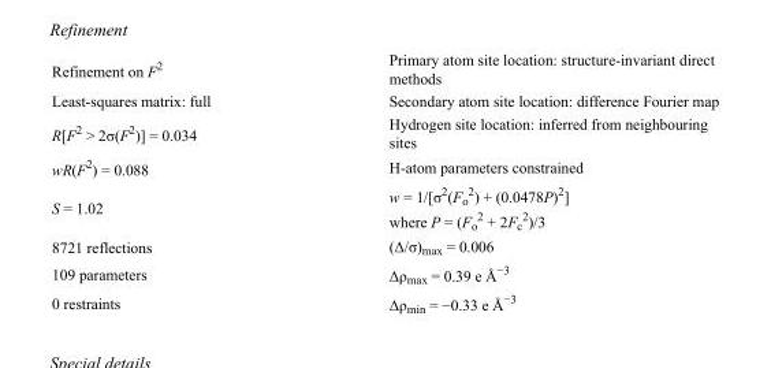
<table><tbody><tr><td>Refinement on F<sup>2</sup></td><td>Primary atom site location: structure-invariant direct methods</td></tr><tr><td>Least-squares matrix: full</td><td>Secondary atom site location: difference Fourier map</td></tr><tr><td>R[F<sup>2</sup> &gt; 2σ(F<sup>2</sup>)] = 0.034</td><td>Hydrogen site location: inferred from neighbouring sites</td></tr><tr><td>wR(F<sup>2</sup>) = 0.088</td><td>H-atom parameters constrained</td></tr><tr><td>S = 1.02</td><td>w = 1/[σ<sup>2</sup>(F<sub>o</sub> <sup>2</sup>) + (0.0478P)<sup>2</sup>] where P = (F<sub>o</sub> <sup>2</sup> + 2F<sub>c</sub> <sup>2</sup>)/3</td></tr><tr><td>8721 reflections</td><td>(Δ/σ)<sub>max</sub> = 0.006</td></tr><tr><td>109 parameters</td><td>Δρ<sub>max</sub> = 0.39 e Å<sup>−3</sup></td></tr><tr><td>0 restraints</td><td>Δρ<sub>min</sub> = −0.33 e Å<sup>−3</sup></td></tr></tbody></table>